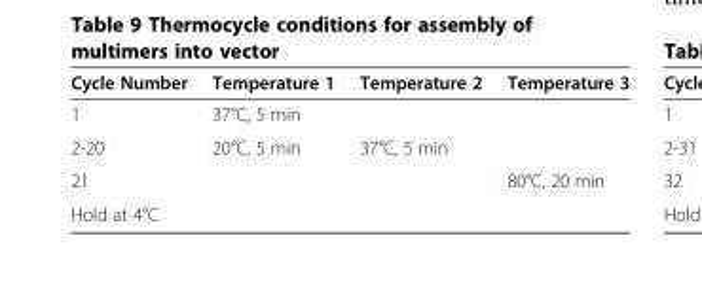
<table><thead><tr><td>Cycle Number</td><td>Temperature 1</td><td>Temperature 2</td><td>Temperature 3</td></tr></thead><tbody><tr><td>1</td><td>37°C, 5 min</td><td></td><td></td></tr><tr><td>2-20</td><td>20°C, 5 min</td><td>37°C, 5 min</td><td></td></tr><tr><td>21</td><td></td><td></td><td>80°C, 20 min</td></tr><tr><td>Hold at 4°C</td><td></td><td></td><td></td></tr></tbody></table>